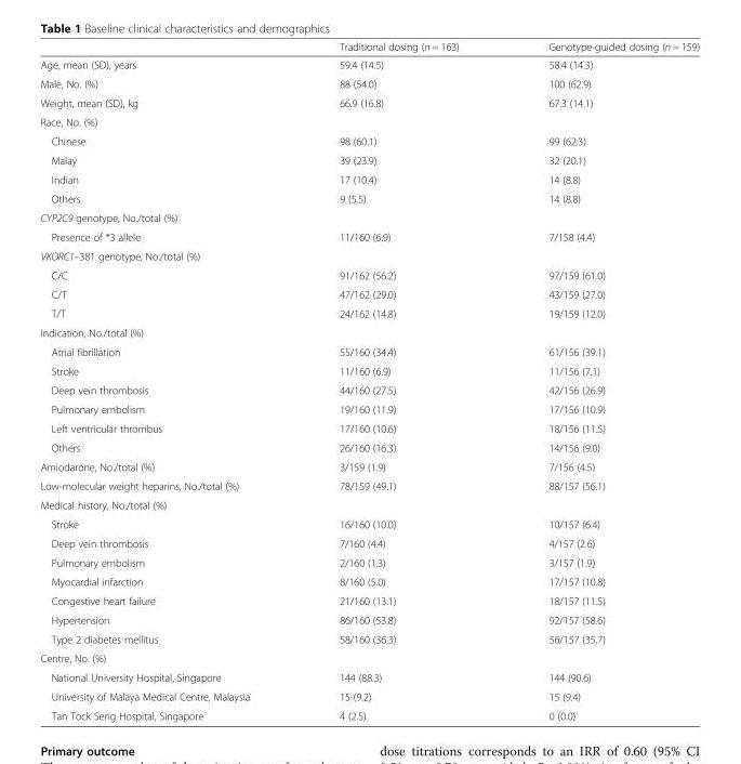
<table><thead><tr><td></td><td>Traditional dosing (n = 163)</td><td>Genotype-guided dosing (n = 159)</td></tr></thead><tbody><tr><td>Age, mean (SD), years</td><td>59.4 (14.5)</td><td>58.4 (14.3)</td></tr><tr><td>Male, No. (%)</td><td>88 (54.0)</td><td>100 (62.9)</td></tr><tr><td>Weight, mean (SD), kg</td><td>66.9 (16.8)</td><td>67.3 (14.1)</td></tr><tr><td colspan="3">Race, No. (%)</td></tr><tr><td>Chinese</td><td>98 (60.1)</td><td>99 (62.3)</td></tr><tr><td>Malay</td><td>39 (23.9)</td><td>32 (20.1)</td></tr><tr><td>Indian</td><td>17 (10.4)</td><td>14 (8.8)</td></tr><tr><td>Others</td><td>9 (5.5)</td><td>14 (8.8)</td></tr><tr><td colspan="3">CYP2C9 genotype, No./total (%)</td></tr><tr><td>Presence of *3 allele</td><td>11/160 (6.9)</td><td>7/158 (4.4)</td></tr><tr><td colspan="3">VKORC1–381 genotype, No./total (%)</td></tr><tr><td>C/C</td><td>91/162 (56.2)</td><td>97/159 (61.0)</td></tr><tr><td>C/T</td><td>47/162 (29.0)</td><td>43/159 (27.0)</td></tr><tr><td>T/T</td><td>24/162 (14.8)</td><td>19/159 (12.0)</td></tr><tr><td colspan="3">Indication, No./total (%)</td></tr><tr><td>Atrial fibrillation</td><td>55/160 (34.4)</td><td>61/156 (39.1)</td></tr><tr><td>Stroke</td><td>11/160 (6.9)</td><td>11/156 (7.1)</td></tr><tr><td>Deep vein thrombosis</td><td>44/160 (27.5)</td><td>42/156 (26.9)</td></tr><tr><td>Pulmonary embolism</td><td>19/160 (11.9)</td><td>17/156 (10.9)</td></tr><tr><td>Left ventricular thrombus</td><td>17/160 (10.6)</td><td>18/156 (11.5)</td></tr><tr><td>Others</td><td>26/160 (16.3)</td><td>14/156 (9.0)</td></tr><tr><td>Amiodarone, No./total (%)</td><td>3/159 (1.9)</td><td>7/156 (4.5)</td></tr><tr><td>Low-molecular weight heparins, No./total (%)</td><td>78/159 (49.1)</td><td>88/157 (56.1)</td></tr><tr><td colspan="3">Medical history, No./total (%)</td></tr><tr><td>Stroke</td><td>16/160 (10.0)</td><td>10/157 (6.4)</td></tr><tr><td>Deep vein thrombosis</td><td>7/160 (4.4)</td><td>4/157 (2.6)</td></tr><tr><td>Pulmonary embolism</td><td>2/160 (1.3)</td><td>3/157 (1.9)</td></tr><tr><td>Myocardial infarction</td><td>8/160 (5.0)</td><td>17/157 (10.8)</td></tr><tr><td>Congestive heart failure</td><td>21/160 (13.1)</td><td>18/157 (11.5)</td></tr><tr><td>Hypertension</td><td>86/160 (53.8)</td><td>92/157 (58.6)</td></tr><tr><td>Type 2 diabetes mellitus</td><td>58/160 (36.3)</td><td>56/157 (35.7)</td></tr><tr><td colspan="3">Centre, No. (%)</td></tr><tr><td>National University Hospital, Singapore</td><td>144 (88.3)</td><td>144 (90.6)</td></tr><tr><td>University of Malaya Medical Centre, Malaysia</td><td>15 (9.2)</td><td>15 (9.4)</td></tr><tr><td>Tan Tock Seng Hospital, Singapore</td><td>4 (2.5)</td><td>0 (0.0)</td></tr></tbody></table>